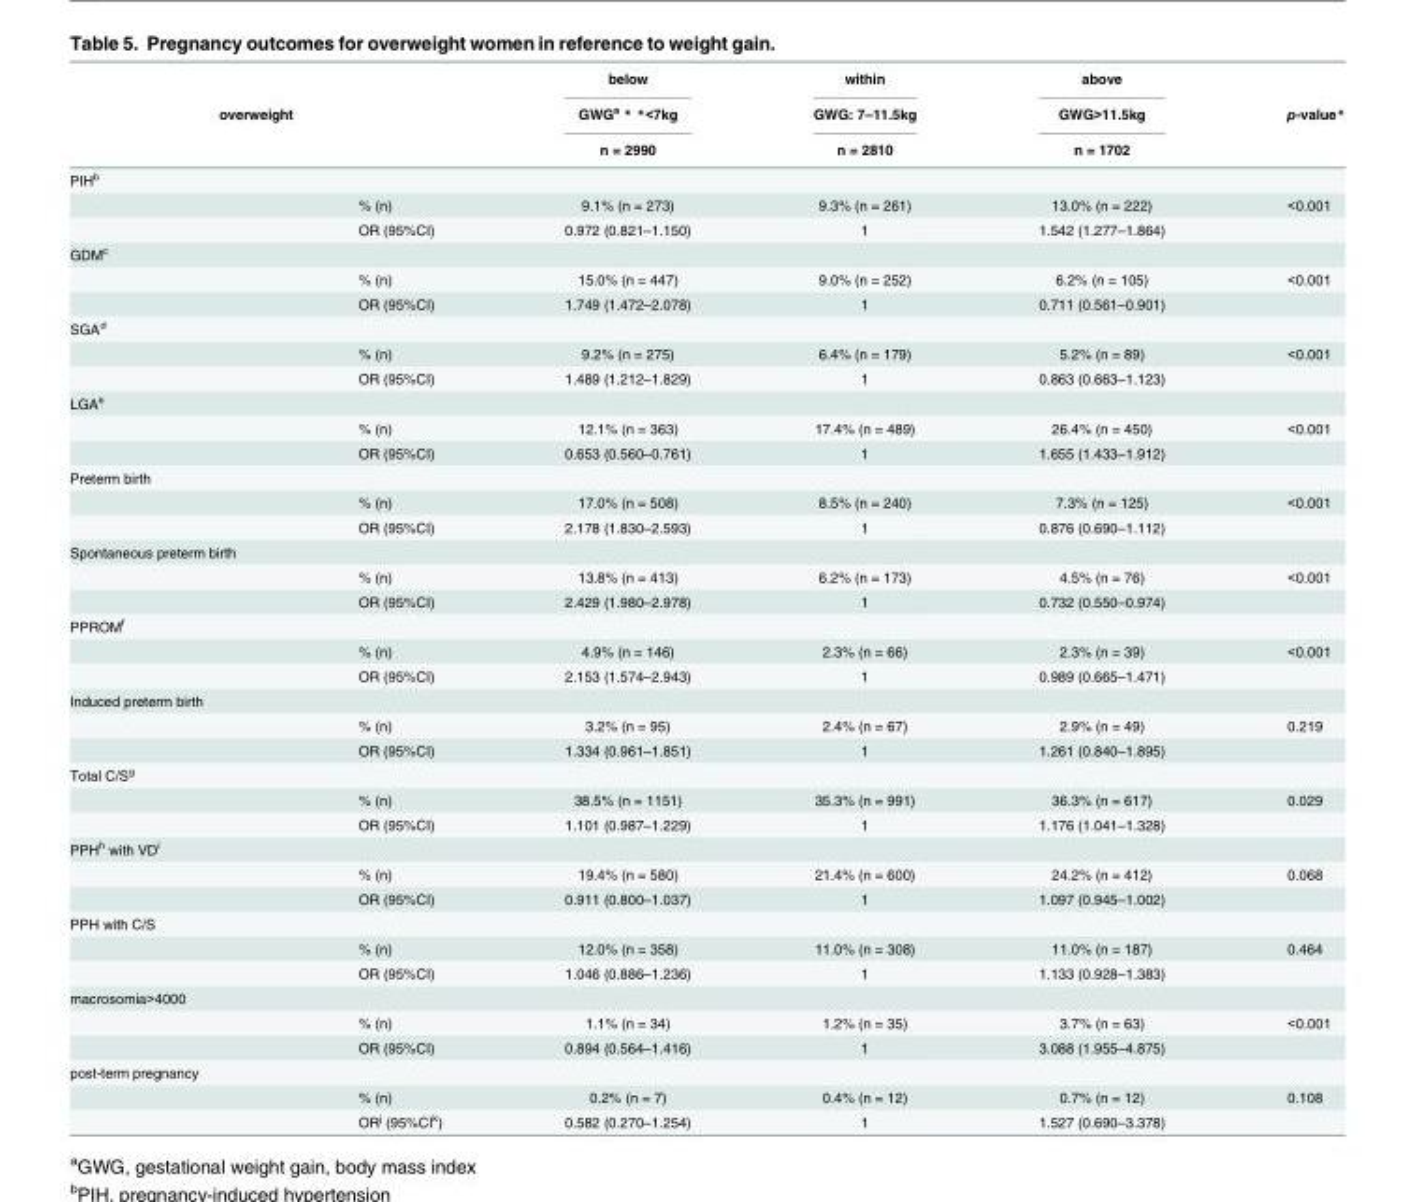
<table><thead><tr><td></td><td></td><td rowspan="3">below GWG<sup>a</sup> * *&lt;7kg n = 2990</td><td rowspan="3">within GWG: 7–11.5kg n = 2810</td><td rowspan="3">above GWG&gt;11.5kg n = 1702</td><td rowspan="3">p-value*</td></tr><tr><td colspan="2">overweight</td></tr><tr><td></td><td></td></tr></thead><tbody><tr><td colspan="6">PIH<sup>b</sup></td></tr><tr><td></td><td>% (n)</td><td>9.1% (n = 273)</td><td>9.3% (n = 261)</td><td>13.0% (n = 222)</td><td>&lt;0.001</td></tr><tr><td></td><td>OR (95%CI)</td><td>0.972 (0.821–1.150)</td><td>1</td><td>1.542 (1.277–1.864)</td><td></td></tr><tr><td colspan="6">GDM<sup>c</sup></td></tr><tr><td></td><td>% (n)</td><td>15.0% (n = 447)</td><td>9.0% (n = 252)</td><td>6.2% (n = 105)</td><td>&lt;0.001</td></tr><tr><td></td><td>OR (95%CI)</td><td>1.749 (1.472–2.078)</td><td>1</td><td>0.711 (0.561–0.901)</td><td></td></tr><tr><td colspan="6">SGA<sup>d</sup></td></tr><tr><td></td><td>% (n)</td><td>9.2% (n = 275)</td><td>6.4% (n = 179)</td><td>5.2% (n = 89)</td><td>&lt;0.001</td></tr><tr><td></td><td>OR (95%CI)</td><td>1.489 (1.212–1.829)</td><td>1</td><td>0.863 (0.663–1.123)</td><td></td></tr><tr><td colspan="6">LGA<sup>e</sup></td></tr><tr><td></td><td>% (n)</td><td>12.1% (n = 363)</td><td>17.4% (n = 489)</td><td>26.4% (n = 450)</td><td>&lt;0.001</td></tr><tr><td></td><td>OR (95%CI)</td><td>0.653 (0.560–0.761)</td><td>1</td><td>1.655 (1.433–1.912)</td><td></td></tr><tr><td colspan="6">Preterm birth</td></tr><tr><td></td><td>% (n)</td><td>17.0% (n = 508)</td><td>8.5% (n = 240)</td><td>7.3% (n = 125)</td><td>&lt;0.001</td></tr><tr><td></td><td>OR (95%CI)</td><td>2.178 (1.830–2.593)</td><td>1</td><td>0.876 (0.690–1.112)</td><td></td></tr><tr><td colspan="6">Spontaneous preterm birth</td></tr><tr><td></td><td>% (n)</td><td>13.8% (n = 413)</td><td>6.2% (n = 173)</td><td>4.5% (n = 76)</td><td>&lt;0.001</td></tr><tr><td></td><td>OR (95%CI)</td><td>2.429 (1.980–2.978)</td><td>1</td><td>0.732 (0.550–0.974)</td><td></td></tr><tr><td colspan="6">PPROM<sup>f</sup></td></tr><tr><td></td><td>% (n)</td><td>4.9% (n = 146)</td><td>2.3% (n = 66)</td><td>2.3% (n = 39)</td><td>&lt;0.001</td></tr><tr><td></td><td>OR (95%CI)</td><td>2.153 (1.574–2.943)</td><td>1</td><td>0.989 (0.665–1.471)</td><td></td></tr><tr><td colspan="6">Induced preterm birth</td></tr><tr><td></td><td>% (n)</td><td>3.2% (n = 95)</td><td>2.4% (n = 67)</td><td>2.9% (n = 49)</td><td>0.219</td></tr><tr><td></td><td>OR (95%CI)</td><td>1.334 (0.961–1.851)</td><td>1</td><td>1.261 (0.840–1.895)</td><td></td></tr><tr><td colspan="6">Total C/S<sup>g</sup></td></tr><tr><td></td><td>% (n)</td><td>38.5% (n = 1151)</td><td>35.3% (n = 991)</td><td>36.3% (n = 617)</td><td>0.029</td></tr><tr><td></td><td>OR (95%CI)</td><td>1.101 (0.987–1.229)</td><td>1</td><td>1.176 (1.041–1.328)</td><td></td></tr><tr><td colspan="6">PPH<sup>h</sup> with VD<sup>i</sup></td></tr><tr><td></td><td>% (n)</td><td>19.4% (n = 580)</td><td>21.4% (n = 600)</td><td>24.2% (n = 412)</td><td>0.068</td></tr><tr><td></td><td>OR (95%CI)</td><td>0.911 (0.800–1.037)</td><td>1</td><td>1.097 (0.945–1.002)</td><td></td></tr><tr><td colspan="6">PPH with C/S</td></tr><tr><td></td><td>% (n)</td><td>12.0% (n = 358)</td><td>11.0% (n = 308)</td><td>11.0% (n = 187)</td><td>0.464</td></tr><tr><td></td><td>OR (95%CI)</td><td>1.046 (0.886–1.236)</td><td>1</td><td>1.133 (0.928–1.383)</td><td></td></tr><tr><td colspan="6">macrosomia&gt;4000</td></tr><tr><td></td><td>% (n)</td><td>1.1% (n = 34)</td><td>1.2% (n = 35)</td><td>3.7% (n = 63)</td><td>&lt;0.001</td></tr><tr><td></td><td>OR (95%CI)</td><td>0.894 (0.564–1.416)</td><td>1</td><td>3.088 (1.955–4.875)</td><td></td></tr><tr><td colspan="6">post-term pregnancy</td></tr><tr><td></td><td>% (n)</td><td>0.2% (n = 7)</td><td>0.4% (n = 12)</td><td>0.7% (n = 12)</td><td>0.108</td></tr><tr><td></td><td>OR<sup>j</sup> (95%CI<sup>k</sup>)</td><td>0.582 (0.270–1.254)</td><td>1</td><td>1.527 (0.690–3.378)</td><td></td></tr></tbody></table>